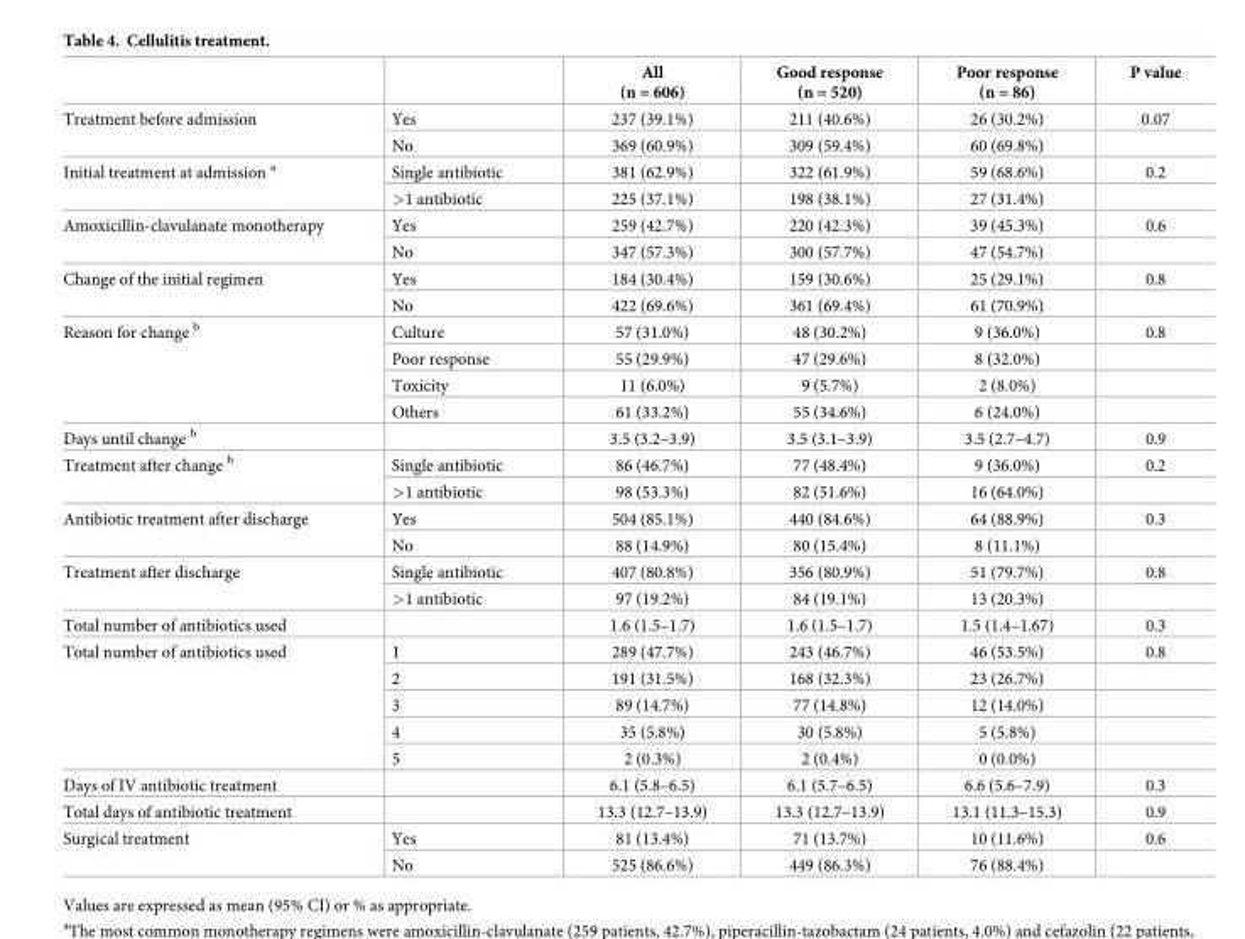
<table><thead><tr><td></td><td></td><td>All (n = 606)</td><td>Good response (n = 520)</td><td>Poor response (n = 86)</td><td>P value</td></tr></thead><tbody><tr><td rowspan="2">Treatment before admission</td><td>Yes</td><td>237 (39.1%)</td><td>211 (40.6%)</td><td>26 (30.2%)</td><td>0.07</td></tr><tr><td>No</td><td>369 (60.9%)</td><td>309 (59.4%)</td><td>60 (69.8%)</td><td></td></tr><tr><td rowspan="2">Initial treatment at admission <sup>a</sup></td><td>Single antibiotic</td><td>381 (62.9%)</td><td>322 (61.9%)</td><td>59 (68.6%)</td><td>0.2</td></tr><tr><td>&gt;1 antibiotic</td><td>225 (37.1%)</td><td>198 (38.1%)</td><td>27 (31.4%)</td><td></td></tr><tr><td rowspan="2">Amoxicillin-clavulanate monotherapy</td><td>Yes</td><td>259 (42.7%)</td><td>220 (42.3%)</td><td>39 (45.3%)</td><td>0.6</td></tr><tr><td>No</td><td>347 (57.3%)</td><td>300 (57.7%)</td><td>47 (54.7%)</td><td></td></tr><tr><td rowspan="2">Change of the initial regimen</td><td>Yes</td><td>184 (30.4%)</td><td>159 (30.6%)</td><td>25 (29.1%)</td><td>0.8</td></tr><tr><td>No</td><td>422 (69.6%)</td><td>361 (69.4%)</td><td>61 (70.9%)</td><td></td></tr><tr><td rowspan="4">Reason for change <sup>b</sup></td><td>Culture</td><td>57 (31.0%)</td><td>48 (30.2%)</td><td>9 (36.0%)</td><td>0.8</td></tr><tr><td>Poor response</td><td>55 (29.9%)</td><td>47 (29.6%)</td><td>8 (32.0%)</td><td></td></tr><tr><td>Toxicity</td><td>11 (6.0%)</td><td>9 (5.7%)</td><td>2 (8.0%)</td><td></td></tr><tr><td>Others</td><td>61 (33.2%)</td><td>55 (34.6%)</td><td>6 (24.0%)</td><td></td></tr><tr><td>Days until change <sup>b</sup></td><td></td><td>3.5 (3.2–3.9)</td><td>3.5 (3.1–3.9)</td><td>3.5 (2.7–4.7)</td><td>0.9</td></tr><tr><td rowspan="2">Treatment after change <sup>b</sup></td><td>Single antibiotic</td><td>86 (46.7%)</td><td>77 (48.4%)</td><td>9 (36.0%)</td><td>0.2</td></tr><tr><td>&gt;1 antibiotic</td><td>98 (53.3%)</td><td>82 (51.6%)</td><td>16 (64.0%)</td><td></td></tr><tr><td rowspan="2">Antibiotic treatment after discharge</td><td>Yes</td><td>504 (85.1%)</td><td>440 (84.6%)</td><td>64 (88.9%)</td><td>0.3</td></tr><tr><td>No</td><td>88 (14.9%)</td><td>80 (15.4%)</td><td>8 (11.1%)</td><td></td></tr><tr><td rowspan="2">Treatment after discharge</td><td>Single antibiotic</td><td>407 (80.8%)</td><td>356 (80.9%)</td><td>51 (79.7%)</td><td>0.8</td></tr><tr><td>&gt;1 antibiotic</td><td>97 (19.2%)</td><td>84 (19.1%)</td><td>13 (20.3%)</td><td></td></tr><tr><td>Total number of antibiotics used</td><td></td><td>1.6 (1.5–1.7)</td><td>1.6 (1.5–1.7)</td><td>1.5 (1.4–1.67)</td><td>0.3</td></tr><tr><td rowspan="5">Total number of antibiotics used</td><td>1</td><td>289 (47.7%)</td><td>243 (46.7%)</td><td>46 (53.5%)</td><td>0.8</td></tr><tr><td>2</td><td>191 (31.5%)</td><td>168 (32.3%)</td><td>23 (26.7%)</td><td></td></tr><tr><td>3</td><td>89 (14.7%)</td><td>77 (14.8%)</td><td>12 (14.0%)</td><td></td></tr><tr><td>4</td><td>35 (5.8%)</td><td>30 (5.8%)</td><td>5 (5.8%)</td><td></td></tr><tr><td>5</td><td>2 (0.3%)</td><td>2 (0.4%)</td><td>0 (0.0%)</td><td></td></tr><tr><td>Days of IV antibiotic treatment</td><td></td><td>6.1 (5.8–6.5)</td><td>6.1 (5.7–6.5)</td><td>6.6 (5.6–7.9)</td><td>0.3</td></tr><tr><td>Total days of antibiotic treatment</td><td></td><td>13.3 (12.7–13.9)</td><td>13.3 (12.7–13.9)</td><td>13.1 (11.3–15.3)</td><td>0.9</td></tr><tr><td rowspan="2">Surgical treatment</td><td>Yes</td><td>81 (13.4%)</td><td>71 (13.7%)</td><td>10 (11.6%)</td><td>0.6</td></tr><tr><td>No</td><td>525 (86.6%)</td><td>449 (86.3%)</td><td>76 (88.4%)</td><td></td></tr></tbody></table>